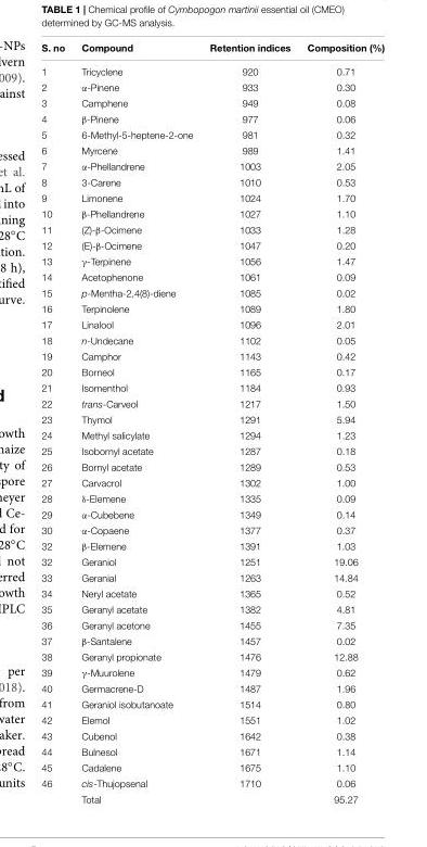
<table><thead><tr><td>S. no</td><td>Compound</td><td>Retention indices</td><td>Composition (%)</td></tr></thead><tbody><tr><td>1</td><td>Tricyclene</td><td>920</td><td>0.71</td></tr><tr><td>2</td><td>α-Pinene</td><td>933</td><td>0.30</td></tr><tr><td>3</td><td>Camphene</td><td>949</td><td>0.08</td></tr><tr><td>4</td><td>β-Pinene</td><td>977</td><td>0.06</td></tr><tr><td>5</td><td>6-Methyl-5-heptene-2-one</td><td>981</td><td>0.32</td></tr><tr><td>6</td><td>Myrcene</td><td>989</td><td>1.41</td></tr><tr><td>7</td><td>α-Phellandrene</td><td>1003</td><td>2.05</td></tr><tr><td>8</td><td>3-Carene</td><td>1010</td><td>0.53</td></tr><tr><td>9</td><td>Limonene</td><td>1024</td><td>1.70</td></tr><tr><td>10</td><td>β-Phellandrene</td><td>1027</td><td>1.10</td></tr><tr><td>11</td><td>(Z)-β-Ocimene</td><td>1033</td><td>1.28</td></tr><tr><td>12</td><td>(E)-β-Ocimene</td><td>1047</td><td>0.20</td></tr><tr><td>13</td><td>γ-Terpinene</td><td>1056</td><td>1.47</td></tr><tr><td>14</td><td>Acetophenone</td><td>1061</td><td>0.09</td></tr><tr><td>15</td><td>p-Mentha-2,4(8)-diene</td><td>1085</td><td>0.02</td></tr><tr><td>16</td><td>Terpinolene</td><td>1089</td><td>1.80</td></tr><tr><td>17</td><td>Linalool</td><td>1096</td><td>2.01</td></tr><tr><td>18</td><td>n-Undecane</td><td>1102</td><td>0.05</td></tr><tr><td>19</td><td>Camphor</td><td>1143</td><td>0.42</td></tr><tr><td>20</td><td>Borneol</td><td>1165</td><td>0.17</td></tr><tr><td>21</td><td>Isomenthol</td><td>1184</td><td>0.93</td></tr><tr><td>22</td><td>trans-Carveol</td><td>1217</td><td>1.50</td></tr><tr><td>23</td><td>Thymol</td><td>1291</td><td>5.94</td></tr><tr><td>24</td><td>Methyl salicylate</td><td>1294</td><td>1.23</td></tr><tr><td>25</td><td>Isobornyl acetate</td><td>1287</td><td>0.18</td></tr><tr><td>26</td><td>Bornyl acetate</td><td>1289</td><td>0.53</td></tr><tr><td>27</td><td>Carvacrol</td><td>1302</td><td>1.00</td></tr><tr><td>28</td><td>δ-Elemene</td><td>1335</td><td>0.09</td></tr><tr><td>29</td><td>α-Cubebene</td><td>1349</td><td>0.14</td></tr><tr><td>30</td><td>α-Copaene</td><td>1377</td><td>0.37</td></tr><tr><td>32</td><td>β-Elemene</td><td>1391</td><td>1.03</td></tr><tr><td>32</td><td>Geraniol</td><td>1251</td><td>19.06</td></tr><tr><td>33</td><td>Geranial</td><td>1263</td><td>14.84</td></tr><tr><td>34</td><td>Neryl acetate</td><td>1365</td><td>0.52</td></tr><tr><td>35</td><td>Geranyl acetate</td><td>1382</td><td>4.81</td></tr><tr><td>36</td><td>Geranyl acetone</td><td>1455</td><td>7.35</td></tr><tr><td>37</td><td>β-Santalene</td><td>1457</td><td>0.02</td></tr><tr><td>38</td><td>Geranyl propionate</td><td>1476</td><td>12.88</td></tr><tr><td>39</td><td>γ-Muurolene</td><td>1479</td><td>0.62</td></tr><tr><td>40</td><td>Germacrene-D</td><td>1487</td><td>1.96</td></tr><tr><td>41</td><td>Geraniol isobutanoate</td><td>1514</td><td>0.80</td></tr><tr><td>42</td><td>Elemol</td><td>1551</td><td>1.02</td></tr><tr><td>43</td><td>Cubenol</td><td>1642</td><td>0.38</td></tr><tr><td>44</td><td>Bulnesol</td><td>1671</td><td>1.14</td></tr><tr><td>45</td><td>Cadalene</td><td>1675</td><td>1.10</td></tr><tr><td rowspan="2">46</td><td>cis-Thujopsenal</td><td>1710</td><td>0.06</td></tr><tr><td>Total</td><td></td><td>95.27</td></tr></tbody></table>